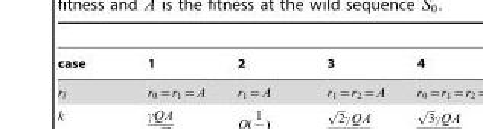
<table><thead><tr><td>case</td><td>1</td><td>2</td><td>3</td><td>4</td></tr></thead><tbody></tbody></table>